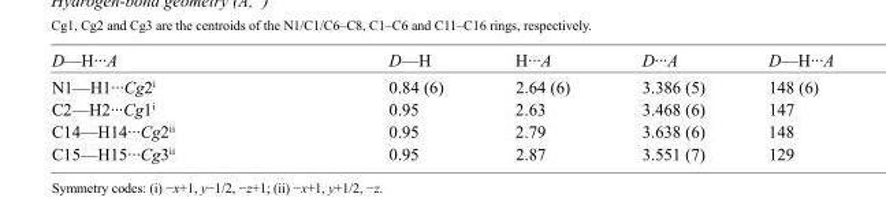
<table><tbody><tr><td>D—H···A</td><td>D—H</td><td>H···A</td><td>D···A</td><td>D—H···A</td></tr><tr><td>N1—H1···Cg2<sup>i</sup></td><td>0.84 (6)</td><td>2.64 (6)</td><td>3.386 (5)</td><td>148 (6)</td></tr><tr><td>C2—H2···Cg1<sup>i</sup></td><td>0.95</td><td>2.63</td><td>3.468 (6)</td><td>147</td></tr><tr><td>C14—H14···Cg2<sup>ii</sup></td><td>0.95</td><td>2.79</td><td>3.638 (6)</td><td>148</td></tr><tr><td>C15—H15···Cg3<sup>ii</sup></td><td>0.95</td><td>2.87</td><td>3.551 (7)</td><td>129</td></tr></tbody></table>